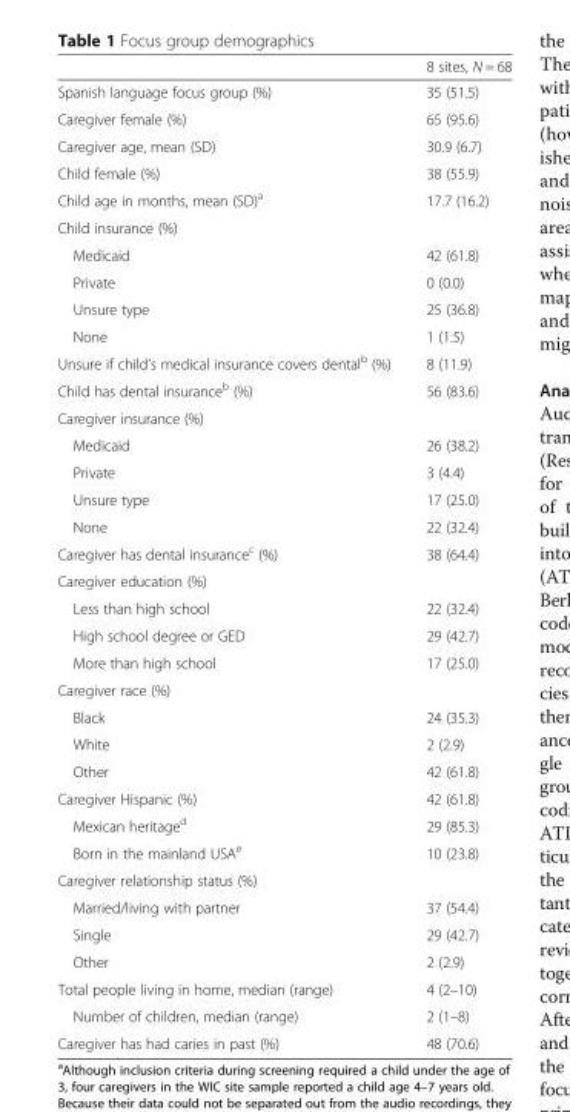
<table><thead><tr><td></td><td>8 sites, N = 68</td></tr></thead><tbody><tr><td>Spanish language focus group (%)</td><td>35 (51.5)</td></tr><tr><td>Caregiver female (%)</td><td>65 (95.6)</td></tr><tr><td>Caregiver age, mean (SD)</td><td>30.9 (6.7)</td></tr><tr><td>Child female (%)</td><td>38 (55.9)</td></tr><tr><td>Child age in months, mean (SD)<sup>a</sup></td><td>17.7 (16.2)</td></tr><tr><td colspan="2">Child insurance (%)</td></tr><tr><td>Medicaid</td><td>42 (61.8)</td></tr><tr><td>Private</td><td>0 (0.0)</td></tr><tr><td>Unsure type</td><td>25 (36.8)</td></tr><tr><td>None</td><td>1 (1.5)</td></tr><tr><td>Unsure if child’s medical insurance covers dental<sup>b</sup> (%)</td><td>8 (11.9)</td></tr><tr><td>Child has dental insurance<sup>b</sup> (%)</td><td>56 (83.6)</td></tr><tr><td colspan="2">Caregiver insurance (%)</td></tr><tr><td>Medicaid</td><td>26 (38.2)</td></tr><tr><td>Private</td><td>3 (4.4)</td></tr><tr><td>Unsure type</td><td>17 (25.0)</td></tr><tr><td>None</td><td>22 (32.4)</td></tr><tr><td>Caregiver has dental insurance<sup>c</sup> (%)</td><td>38 (64.4)</td></tr><tr><td colspan="2">Caregiver education (%)</td></tr><tr><td>Less than high school</td><td>22 (32.4)</td></tr><tr><td>High school degree or GED</td><td>29 (42.7)</td></tr><tr><td>More than high school</td><td>17 (25.0)</td></tr><tr><td colspan="2">Caregiver race (%)</td></tr><tr><td>Black</td><td>24 (35.3)</td></tr><tr><td>White</td><td>2 (2.9)</td></tr><tr><td>Other</td><td>42 (61.8)</td></tr><tr><td>Caregiver Hispanic (%)</td><td>42 (61.8)</td></tr><tr><td>Mexican heritage<sup>d</sup></td><td>29 (85.3)</td></tr><tr><td>Born in the mainland USA<sup>e</sup></td><td>10 (23.8)</td></tr><tr><td colspan="2">Caregiver relationship status (%)</td></tr><tr><td>Married/living with partner</td><td>37 (54.4)</td></tr><tr><td>Single</td><td>29 (42.7)</td></tr><tr><td>Other</td><td>2 (2.9)</td></tr><tr><td>Total people living in home, median (range)</td><td>4 (2–10)</td></tr><tr><td>Number of children, median (range)</td><td>2 (1–8)</td></tr><tr><td>Caregiver has had caries in past (%)</td><td>48 (70.6)</td></tr></tbody></table>